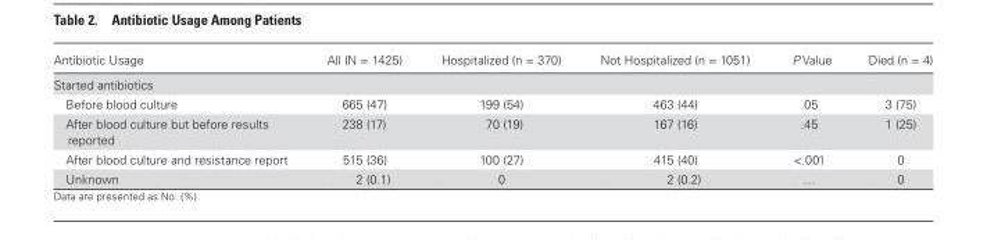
<table><thead><tr><td>Antibiotic Usage</td><td>All (N = 1425)</td><td>Hospitalized (n = 370)</td><td>Not Hospitalized (n = 1051)</td><td>P Value</td><td>Died (n = 4)</td></tr></thead><tbody><tr><td colspan="6">Started antibiotics</td></tr><tr><td>Before blood culture</td><td>665 (47)</td><td>199 (54)</td><td>463 (44)</td><td>.05</td><td>3 (75)</td></tr><tr><td>After blood culture but before results reported</td><td>238 (17)</td><td>70 (19)</td><td>167 (16)</td><td>.45</td><td>1 (25)</td></tr><tr><td>After blood culture and resistance report</td><td>515 (36)</td><td>100 (27)</td><td>415 (40)</td><td>&lt;.001</td><td>0</td></tr><tr><td>Unknown</td><td>2 (0.1)</td><td>0</td><td>2 (0.2)</td><td>…</td><td>0</td></tr></tbody></table>